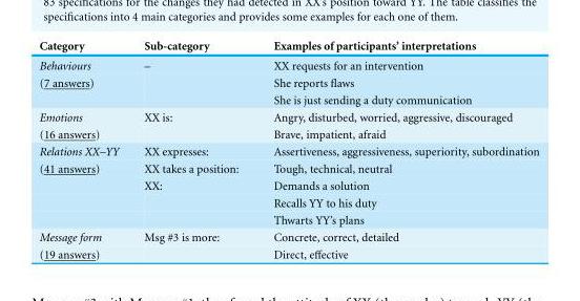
<table><thead><tr><td>Category</td><td>Sub-category</td><td>Examples of participants’ interpretations</td></tr></thead><tbody><tr><td>Behaviours</td><td>–</td><td>XX requests for an intervention</td></tr><tr><td rowspan="2">(7 answers)</td><td></td><td>She reports flaws</td></tr><tr><td></td><td>She is just sending a duty communication</td></tr><tr><td>Emotions</td><td>XX is:</td><td>Angry, disturbed, worried, aggressive, discouraged</td></tr><tr><td>(16 answers)</td><td></td><td>Brave, impatient, afraid</td></tr><tr><td>Relations XX–YY</td><td>XX expresses:</td><td>Assertiveness, aggressiveness, superiority, subordination</td></tr><tr><td rowspan="4">(41 answers)</td><td>XX takes a position:</td><td>Tough, technical, neutral</td></tr><tr><td>XX:</td><td>Demands a solution</td></tr><tr><td></td><td>Recalls YY to his duty</td></tr><tr><td></td><td>Thwarts YY’s plans</td></tr><tr><td>Message form</td><td>Msg #3 is more:</td><td>Concrete, correct, detailed</td></tr><tr><td>(19 answers)</td><td></td><td>Direct, effective</td></tr></tbody></table>